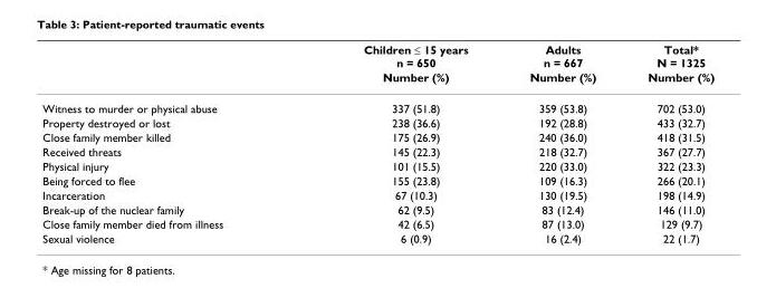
<table><thead><tr><td rowspan="2"></td><td rowspan="2">Children ≤ 15 years n = 650 Number (%)</td><td rowspan="2">Adults n = 667 Number (%)</td><td rowspan="2">Total* N = 1325 Number (%)</td></tr><tr></tr></thead><tbody><tr><td>Witness to murder or physical abuse</td><td>337 (51.8)</td><td>359 (53.8)</td><td>702 (53.0)</td></tr><tr><td>Property destroyed or lost</td><td>238 (36.6)</td><td>192 (28.8)</td><td>433 (32.7)</td></tr><tr><td>Close family member killed</td><td>175 (26.9)</td><td>240 (36.0)</td><td>418 (31.5)</td></tr><tr><td>Received threats</td><td>145 (22.3)</td><td>218 (32.7)</td><td>367 (27.7)</td></tr><tr><td>Physical injury</td><td>101 (15.5)</td><td>220 (33.0)</td><td>322 (23.3)</td></tr><tr><td>Being forced to flee</td><td>155 (23.8)</td><td>109 (16.3)</td><td>266 (20.1)</td></tr><tr><td>Incarceration</td><td>67 (10.3)</td><td>130 (19.5)</td><td>198 (14.9)</td></tr><tr><td>Break-up of the nuclear family</td><td>62 (9.5)</td><td>83 (12.4)</td><td>146 (11.0)</td></tr><tr><td>Close family member died from illness</td><td>42 (6.5)</td><td>87 (13.0)</td><td>129 (9.7)</td></tr><tr><td>Sexual violence</td><td>6 (0.9)</td><td>16 (2.4)</td><td>22 (1.7)</td></tr></tbody></table>